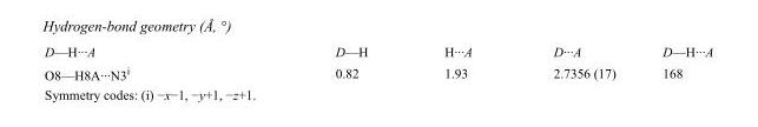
<table><tbody><tr><td>D—H···A</td><td>D—H</td><td>H···A</td><td>D···A</td><td>D—H···A</td></tr><tr><td>O8—H8A···N3<sup>i</sup></td><td>0.82</td><td>1.93</td><td>2.7356 (17)</td><td>168</td></tr></tbody></table>